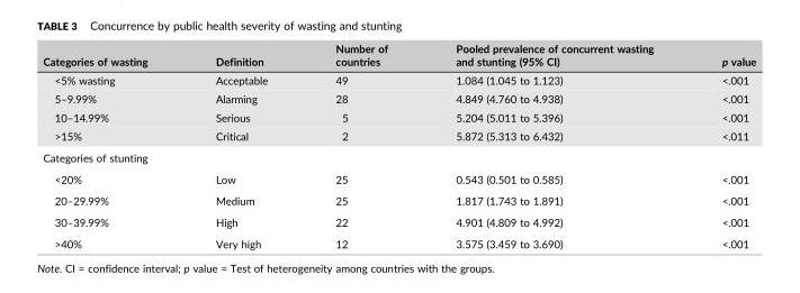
<table><thead><tr><td>Categories of wasting</td><td>Definition</td><td>Number of countries</td><td>Pooled prevalence of concurrent wasting and stunting (95% CI)</td><td>p value</td></tr></thead><tbody><tr><td>&lt;5% wasting</td><td>Acceptable</td><td>49</td><td>1.084 (1.045 to 1.123)</td><td>&lt;.001</td></tr><tr><td>5–9.99%</td><td>Alarming</td><td>28</td><td>4.849 (4.760 to 4.938)</td><td>&lt;.001</td></tr><tr><td>10–14.99%</td><td>Serious</td><td>5</td><td>5.204 (5.011 to 5.396)</td><td>&lt;.001</td></tr><tr><td>&gt;15%</td><td>Critical</td><td>2</td><td>5.872 (5.313 to 6.432)</td><td>&lt;.011</td></tr><tr><td colspan="5">Categories of stunting</td></tr><tr><td>&lt;20%</td><td>Low</td><td>25</td><td>0.543 (0.501 to 0.585)</td><td>&lt;.001</td></tr><tr><td>20–29.99%</td><td>Medium</td><td>25</td><td>1.817 (1.743 to 1.891)</td><td>&lt;.001</td></tr><tr><td>30–39.99%</td><td>High</td><td>22</td><td>4.901 (4.809 to 4.992)</td><td>&lt;.001</td></tr><tr><td>&gt;40%</td><td>Very high</td><td>12</td><td>3.575 (3.459 to 3.690)</td><td>&lt;.001</td></tr></tbody></table>